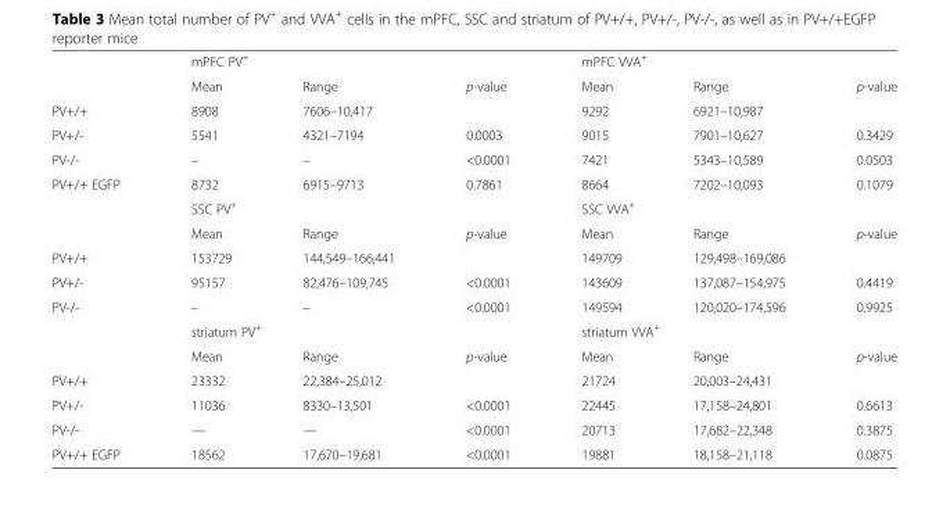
<table><thead><tr><td rowspan="2"></td><td colspan="3">mPFC PV<sup>+</sup></td><td colspan="3">mPFC VVA<sup>+</sup></td></tr><tr><td>Mean</td><td>Range</td><td>p-value</td><td>Mean</td><td>Range</td><td>p-value</td></tr></thead><tbody><tr><td>PV+/+</td><td>8908</td><td>7606–10,417</td><td></td><td>9292</td><td>6921–10,987</td><td></td></tr><tr><td>PV+/-</td><td>5541</td><td>4321–7194</td><td>0.0003</td><td>9015</td><td>7901–10,627</td><td>0.3429</td></tr><tr><td>PV-/-</td><td>–</td><td>–</td><td>&lt;0.0001</td><td>7421</td><td>5343–10,589</td><td>0.0503</td></tr><tr><td rowspan="3">PV+/+ EGFP</td><td>8732</td><td>6915–9713</td><td>0.7861</td><td>8664</td><td>7202–10,093</td><td>0.1079</td></tr><tr><td colspan="3">SSC PV<sup>+</sup></td><td colspan="3">SSC VVA<sup>+</sup></td></tr><tr><td>Mean</td><td>Range</td><td>p-value</td><td>Mean</td><td>Range</td><td>p-value</td></tr><tr><td>PV+/+</td><td>153729</td><td>144,549–166,441</td><td></td><td>149709</td><td>129,498–169,086</td><td></td></tr><tr><td>PV+/-</td><td>95157</td><td>82,476–109,745</td><td>&lt;0.0001</td><td>143609</td><td>137,087–154,975</td><td>0.4419</td></tr><tr><td rowspan="3">PV-/-</td><td>–</td><td>–</td><td>&lt;0.0001</td><td>149594</td><td>120,020–174,596</td><td>0.9925</td></tr><tr><td colspan="3">striatum PV<sup>+</sup></td><td colspan="3">striatum VVA<sup>+</sup></td></tr><tr><td>Mean</td><td>Range</td><td>p-value</td><td>Mean</td><td>Range</td><td>p-value</td></tr><tr><td>PV+/+</td><td>23332</td><td>22,384–25,012</td><td></td><td>21724</td><td>20,003–24,431</td><td></td></tr><tr><td>PV+/-</td><td>11036</td><td>8330–13,501</td><td>&lt;0.0001</td><td>22445</td><td>17,158–24,801</td><td>0.6613</td></tr><tr><td>PV-/-</td><td>—</td><td>—</td><td>&lt;0.0001</td><td>20713</td><td>17,682–22,348</td><td>0.3875</td></tr><tr><td>PV+/+ EGFP</td><td>18562</td><td>17,670–19,681</td><td>&lt;0.0001</td><td>19881</td><td>18,158–21,118</td><td>0.0875</td></tr></tbody></table>